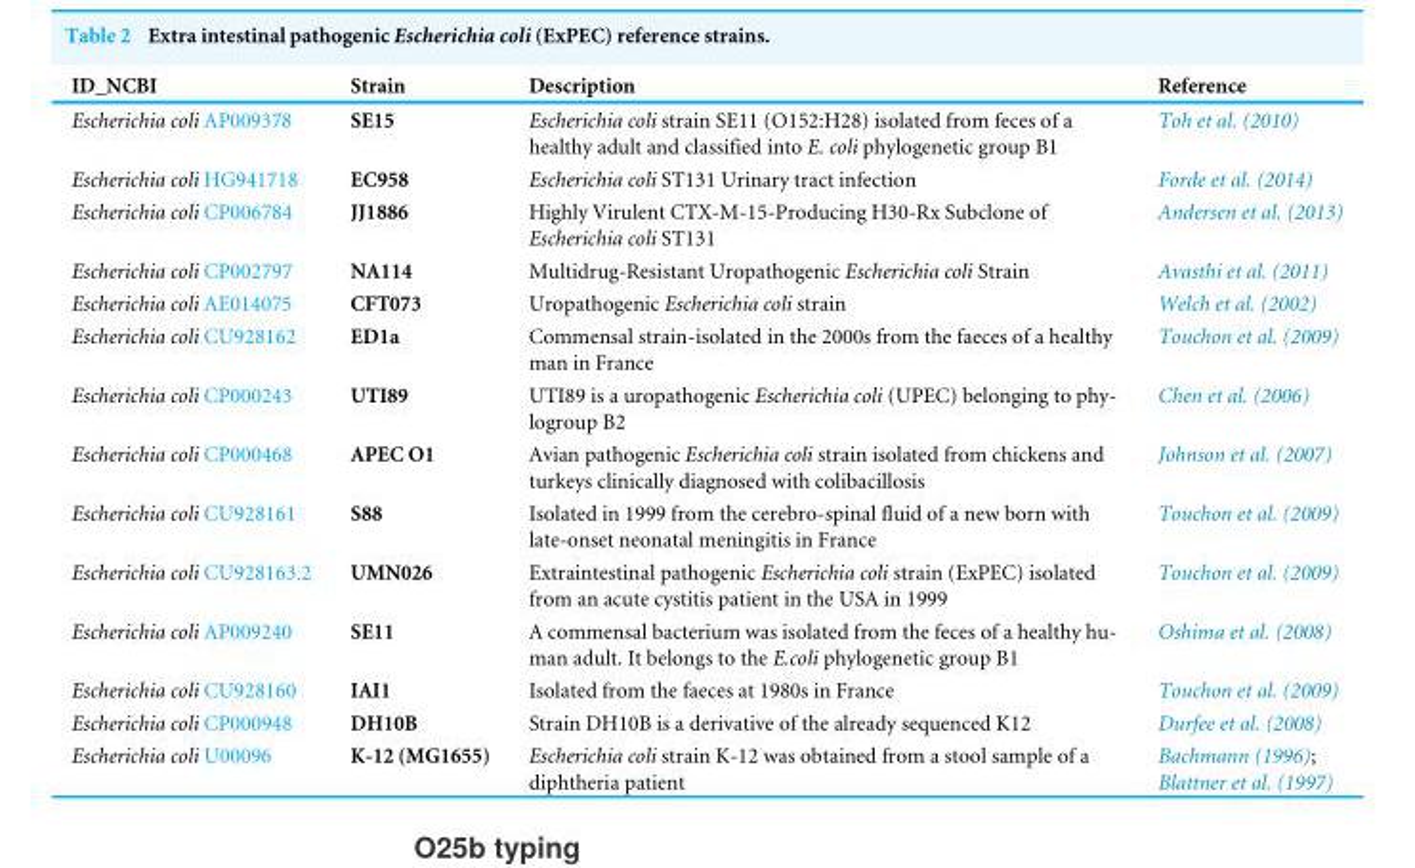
<table><thead><tr><td>ID_NCBI</td><td>Strain</td><td>Description</td><td>Reference</td></tr></thead><tbody><tr><td>Escherichia coli AP009378</td><td>SE15</td><td>Escherichia coli strain SE11 (O152:H28) isolated from feces of a healthy adult and classified into E. coli phylogenetic group B1</td><td>Toh et al. (2010)</td></tr><tr><td>Escherichia coli HG941718</td><td>EC958</td><td>Escherichia coli ST131 Urinary tract infection</td><td>Forde et al. (2014)</td></tr><tr><td>Escherichia coli CP006784</td><td>JJ1886</td><td>Highly Virulent CTX-M-15-Producing H30-Rx Subclone of Escherichia coli ST131</td><td>Andersen et al. (2013)</td></tr><tr><td>Escherichia coli CP002797</td><td>NA114</td><td>Multidrug-Resistant Uropathogenic Escherichia coli Strain</td><td>Avasthi et al. (2011)</td></tr><tr><td>Escherichia coli AE014075</td><td>CFT073</td><td>Uropathogenic Escherichia coli strain</td><td>Welch et al. (2002)</td></tr><tr><td>Escherichia coli CU928162</td><td>ED1a</td><td>Commensal strain-isolated in the 2000s from the faeces of a healthy man in France</td><td>Touchon et al. (2009)</td></tr><tr><td>Escherichia coli CP000243</td><td>UTI89</td><td>UTI89 is a uropathogenic Escherichia coli (UPEC) belonging to phy- logroup B2</td><td>Chen et al. (2006)</td></tr><tr><td>Escherichia coli CP000468</td><td>APEC O1</td><td>Avian pathogenic Escherichia coli strain isolated from chickens and turkeys clinically diagnosed with colibacillosis</td><td>Johnson et al. (2007)</td></tr><tr><td>Escherichia coli CU928161</td><td>S88</td><td>Isolated in 1999 from the cerebro-spinal fluid of a new born with late-onset neonatal meningitis in France</td><td>Touchon et al. (2009)</td></tr><tr><td>Escherichia coli CU928163.2</td><td>UMN026</td><td>Extraintestinal pathogenic Escherichia coli strain (ExPEC) isolated from an acute cystitis patient in the USA in 1999</td><td>Touchon et al. (2009)</td></tr><tr><td>Escherichia coli AP009240</td><td>SE11</td><td>A commensal bacterium was isolated from the feces of a healthy hu- man adult. It belongs to the E.coli phylogenetic group B1</td><td>Oshima et al. (2008)</td></tr><tr><td>Escherichia coli CU928160</td><td>IAI1</td><td>Isolated from the faeces at 1980s in France</td><td>Touchon et al. (2009)</td></tr><tr><td>Escherichia coli CP000948</td><td>DH10B</td><td>Strain DH10B is a derivative of the already sequenced K12</td><td>Durfee et al. (2008)</td></tr><tr><td>Escherichia coli U00096</td><td>K-12 (MG1655)</td><td>Escherichia coli strain K-12 was obtained from a stool sample of a diphtheria patient</td><td>Bachmann (1996); Blattner et al. (1997)</td></tr></tbody></table>